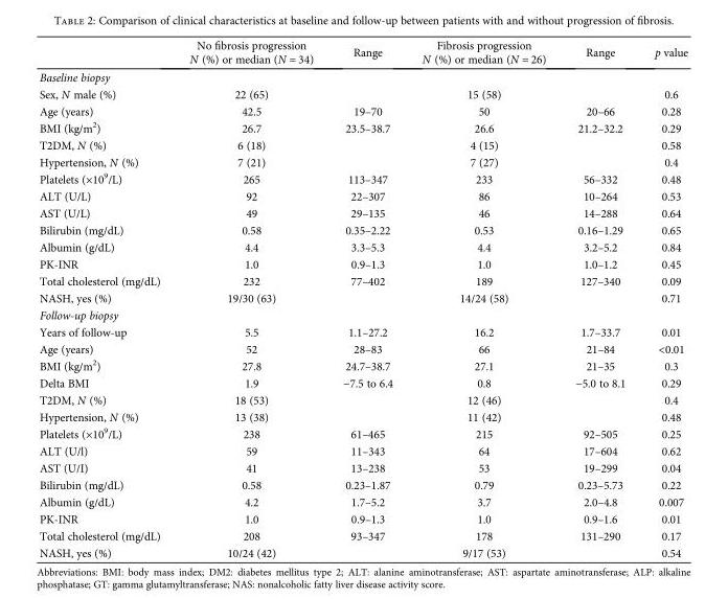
<table><thead><tr><td></td><td>No fibrosis progression N (%) or median (N = 34)</td><td>Range</td><td>Fibrosis progression N (%) or median (N = 26)</td><td>Range</td><td>p value</td></tr></thead><tbody><tr><td colspan="6">Baseline biopsy</td></tr><tr><td>Sex, N male (%)</td><td>22 (65)</td><td></td><td>15 (58)</td><td></td><td>0.6</td></tr><tr><td>Age (years)</td><td>42.5</td><td>19–70</td><td>50</td><td>20–66</td><td>0.28</td></tr><tr><td>BMI (kg/m<sup>2</sup>)</td><td>26.7</td><td>23.5–38.7</td><td>26.6</td><td>21.2–32.2</td><td>0.29</td></tr><tr><td>T2DM, N (%)</td><td>6 (18)</td><td></td><td>4 (15)</td><td></td><td>0.58</td></tr><tr><td>Hypertension, N (%)</td><td>7 (21)</td><td></td><td>7 (27)</td><td></td><td>0.4</td></tr><tr><td>Platelets (×10<sup>9</sup>/L)</td><td>265</td><td>113–347</td><td>233</td><td>56–332</td><td>0.48</td></tr><tr><td>ALT (U/L)</td><td>92</td><td>22–307</td><td>86</td><td>10–264</td><td>0.53</td></tr><tr><td>AST (U/L)</td><td>49</td><td>29–135</td><td>46</td><td>14–288</td><td>0.64</td></tr><tr><td>Bilirubin (mg/dL)</td><td>0.58</td><td>0.35–2.22</td><td>0.53</td><td>0.16–1.29</td><td>0.65</td></tr><tr><td>Albumin (g/dL)</td><td>4.4</td><td>3.3–5.3</td><td>4.4</td><td>3.2–5.2</td><td>0.84</td></tr><tr><td>PK-INR</td><td>1.0</td><td>0.9–1.3</td><td>1.0</td><td>1.0–1.2</td><td>0.45</td></tr><tr><td>Total cholesterol (mg/dL)</td><td>232</td><td>77–402</td><td>189</td><td>127–340</td><td>0.09</td></tr><tr><td>NASH, yes (%)</td><td>19/30 (63)</td><td></td><td>14/24 (58)</td><td></td><td>0.71</td></tr><tr><td colspan="6">Follow-up biopsy</td></tr><tr><td>Years of follow-up</td><td>5.5</td><td>1.1–27.2</td><td>16.2</td><td>1.7–33.7</td><td>0.01</td></tr><tr><td>Age (years)</td><td>52</td><td>28–83</td><td>66</td><td>21–84</td><td>&lt;0.01</td></tr><tr><td>BMI (kg/m<sup>2</sup>)</td><td>27.8</td><td>24.7–38.7</td><td>27.1</td><td>21–35</td><td>0.3</td></tr><tr><td>Delta BMI</td><td>1.9</td><td>−7.5 to 6.4</td><td>0.8</td><td>−5.0 to 8.1</td><td>0.29</td></tr><tr><td>T2DM, N (%)</td><td>18 (53)</td><td></td><td>12 (46)</td><td></td><td>0.4</td></tr><tr><td>Hypertension, N (%)</td><td>13 (38)</td><td></td><td>11 (42)</td><td></td><td>0.48</td></tr><tr><td>Platelets (×10<sup>9</sup>/L)</td><td>238</td><td>61–465</td><td>215</td><td>92–505</td><td>0.25</td></tr><tr><td>ALT (U/l)</td><td>59</td><td>11–343</td><td>64</td><td>17–604</td><td>0.62</td></tr><tr><td>AST (U/I)</td><td>41</td><td>13–238</td><td>53</td><td>19–299</td><td>0.04</td></tr><tr><td>Bilirubin (mg/dL)</td><td>0.58</td><td>0.23–1.87</td><td>0.79</td><td>0.23–5.73</td><td>0.22</td></tr><tr><td>Albumin (g/dL)</td><td>4.2</td><td>1.7–5.2</td><td>3.7</td><td>2.0–4.8</td><td>0.007</td></tr><tr><td>PK-INR</td><td>1.0</td><td>0.9–1.3</td><td>1.0</td><td>0.9–1.6</td><td>0.01</td></tr><tr><td>Total cholesterol (mg/dL)</td><td>208</td><td>93–347</td><td>178</td><td>131–290</td><td>0.17</td></tr><tr><td>NASH, yes (%)</td><td>10/24 (42)</td><td></td><td>9/17 (53)</td><td></td><td>0.54</td></tr></tbody></table>